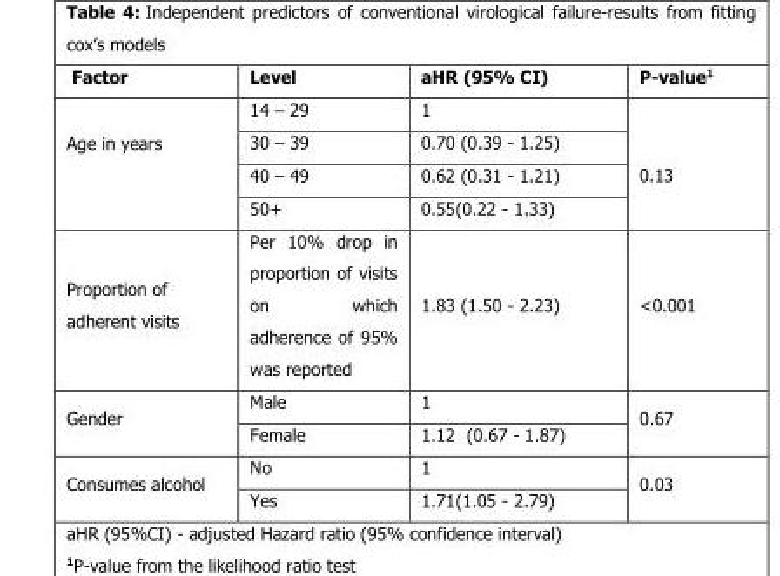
<table><thead><tr><td>Factor</td><td>Level</td><td>aHR (95% CI)</td><td>P-value<sup>1</sup></td></tr></thead><tbody><tr><td rowspan="4">Age in years</td><td>14 – 29</td><td>1</td><td rowspan="4">0.13</td></tr><tr><td>30 – 39</td><td>0.70 (0.39 - 1.25)</td></tr><tr><td>40 – 49</td><td>0.62 (0.31 - 1.21)</td></tr><tr><td>50+</td><td>0.55(0.22 - 1.33)</td></tr><tr><td>Proportion of adherent visits</td><td>Per 10% drop in proportion of visits on which adherence of 95% was reported</td><td>1.83 (1.50 - 2.23)</td><td>&lt;0.001</td></tr><tr><td rowspan="2">Gender</td><td>Male</td><td>1</td><td rowspan="2">0.67</td></tr><tr><td>Female</td><td>1.12 (0.67 - 1.87)</td></tr><tr><td rowspan="2">Consumes alcohol</td><td>No</td><td>1</td><td rowspan="2">0.03</td></tr><tr><td>Yes</td><td>1.71(1.05 - 2.79)</td></tr></tbody></table>